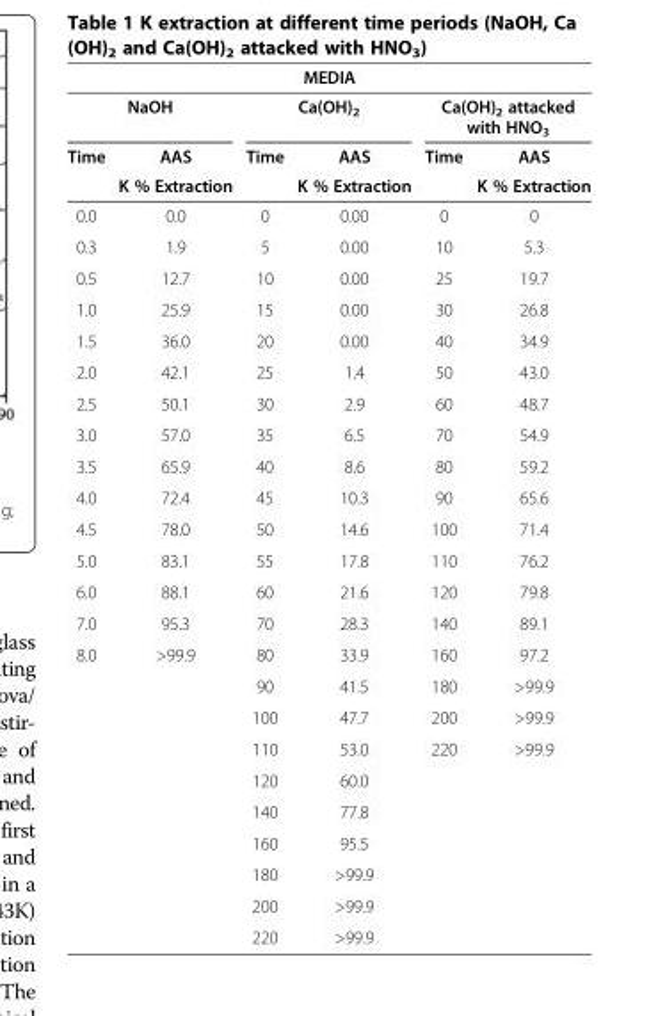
<table><thead><tr><td colspan="6">MEDIA</td></tr><tr><td colspan="2">NaOH</td><td colspan="2">Ca(OH)<sub>2</sub></td><td colspan="2">Ca(OH)<sub>2</sub> attacked with HNO<sub>3</sub></td></tr><tr><td rowspan="2">Time</td><td rowspan="2">AAS K % Extraction</td><td rowspan="2">Time</td><td rowspan="2">AAS K % Extraction</td><td rowspan="2">Time</td><td rowspan="2">AAS K % Extraction</td></tr><tr></tr></thead><tbody><tr><td>0.0</td><td>0.0</td><td>0</td><td>0.00</td><td>0</td><td>0</td></tr><tr><td>0.3</td><td>1.9</td><td>5</td><td>0.00</td><td>10</td><td>5.3</td></tr><tr><td>0.5</td><td>12.7</td><td>10</td><td>0.00</td><td>25</td><td>19.7</td></tr><tr><td>1.0</td><td>25.9</td><td>15</td><td>0.00</td><td>30</td><td>26.8</td></tr><tr><td>1.5</td><td>36.0</td><td>20</td><td>0.00</td><td>40</td><td>34.9</td></tr><tr><td>2.0</td><td>42.1</td><td>25</td><td>1.4</td><td>50</td><td>43.0</td></tr><tr><td>2.5</td><td>50.1</td><td>30</td><td>2.9</td><td>60</td><td>48.7</td></tr><tr><td>3.0</td><td>57.0</td><td>35</td><td>6.5</td><td>70</td><td>54.9</td></tr><tr><td>3.5</td><td>65.9</td><td>40</td><td>8.6</td><td>80</td><td>59.2</td></tr><tr><td>4.0</td><td>72.4</td><td>45</td><td>10.3</td><td>90</td><td>65.6</td></tr><tr><td>4.5</td><td>78.0</td><td>50</td><td>14.6</td><td>100</td><td>71.4</td></tr><tr><td>5.0</td><td>83.1</td><td>55</td><td>17.8</td><td>110</td><td>76.2</td></tr><tr><td>6.0</td><td>88.1</td><td>60</td><td>21.6</td><td>120</td><td>79.8</td></tr><tr><td>7.0</td><td>95.3</td><td>70</td><td>28.3</td><td>140</td><td>89.1</td></tr><tr><td rowspan="10">8.0</td><td>&gt;99.9</td><td>80</td><td>33.9</td><td>160</td><td>97.2</td></tr><tr><td></td><td>90</td><td>41.5</td><td>180</td><td>&gt;99.9</td></tr><tr><td></td><td>100</td><td>47.7</td><td>200</td><td>&gt;99.9</td></tr><tr><td></td><td>110</td><td>53.0</td><td>220</td><td>&gt;99.9</td></tr><tr><td></td><td>120</td><td>60.0</td><td></td><td></td></tr><tr><td></td><td>140</td><td>77.8</td><td></td><td></td></tr><tr><td></td><td>160</td><td>95.5</td><td></td><td></td></tr><tr><td></td><td>180</td><td>&gt;99.9</td><td></td><td></td></tr><tr><td></td><td>200</td><td>&gt;99.9</td><td></td><td></td></tr><tr><td></td><td>220</td><td>&gt;99.9</td><td></td><td></td></tr></tbody></table>